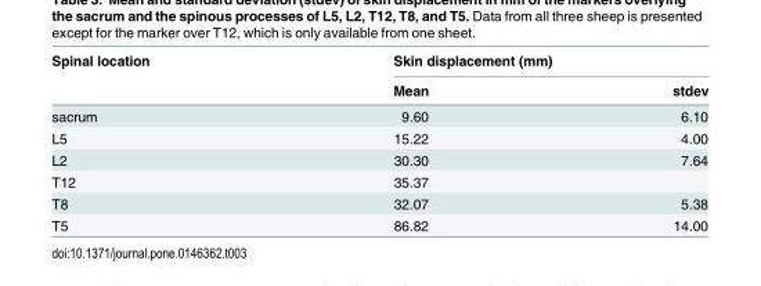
<table><thead><tr><td rowspan="2">Spinal location</td><td colspan="2">Skin displacement (mm)</td></tr><tr><td>Mean</td><td>stdev</td></tr></thead><tbody><tr><td>sacrum</td><td>9.60</td><td>6.10</td></tr><tr><td>L5</td><td>15.22</td><td>4.00</td></tr><tr><td>L2</td><td>30.30</td><td>7.64</td></tr><tr><td>T12</td><td>35.37</td><td></td></tr><tr><td>T8</td><td>32.07</td><td>5.38</td></tr><tr><td>T5</td><td>86.82</td><td>14.00</td></tr></tbody></table>